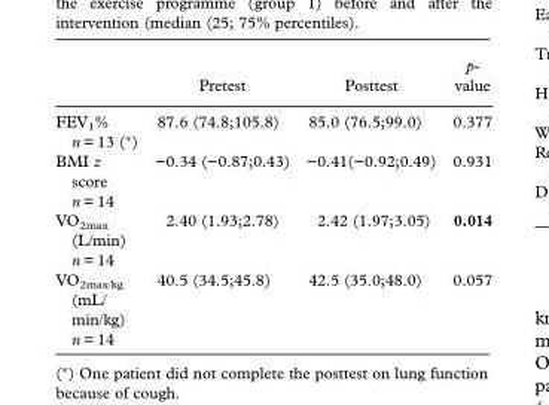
<table><thead><tr><td></td><td>Pretest</td><td>Posttest</td><td>p- value</td></tr></thead><tbody><tr><td>FEV1% n = 13 (∗)</td><td>87.6 (74.8;105.8)</td><td>85.0 (76.5;99.0)</td><td>0.377</td></tr><tr><td>BMI z score n = 14</td><td>−0.34 (−0.87;0.43)</td><td>−0.41(−0.92;0.49)</td><td>0.931</td></tr><tr><td>VO<sub>2max</sub> (L/min) n = 14</td><td>2.40 (1.93;2.78)</td><td>2.42 (1.97;3.05)</td><td>0.014</td></tr><tr><td>VO<sub>2max/kg</sub> (mL/ min/kg) n = 14</td><td>40.5 (34.5;45.8)</td><td>42.5 (35.0;48.0)</td><td>0.057</td></tr></tbody></table>